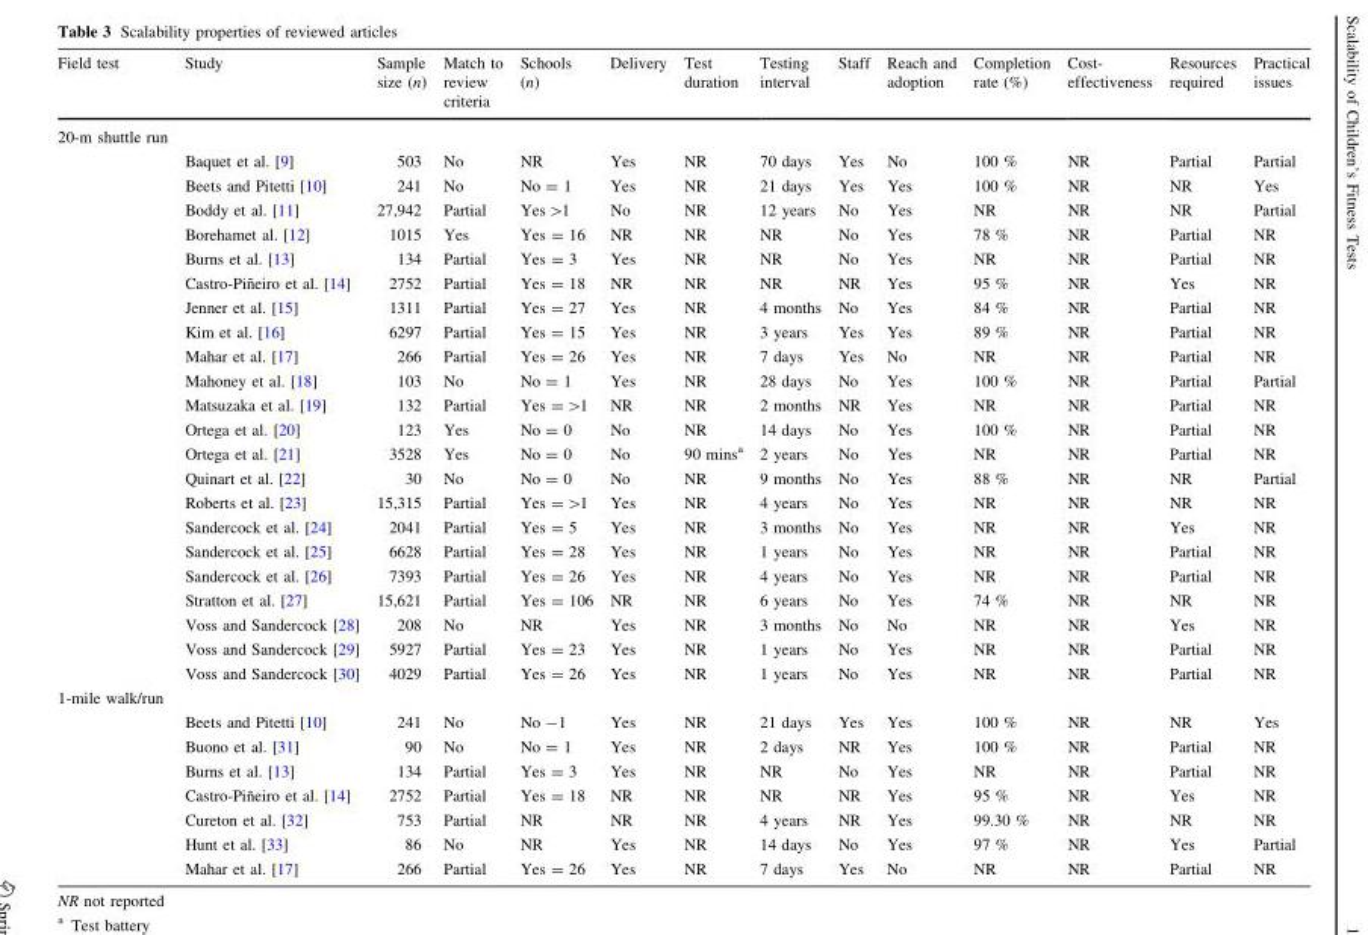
<table><thead><tr><td>Field test</td><td>Study</td><td>Sample size (n)</td><td>Match to review criteria</td><td>Schools (n)</td><td>Delivery</td><td>Test duration</td><td>Testing interval</td><td>Staff</td><td>Reach and adoption</td><td>Completion rate (%)</td><td>Cost- effectiveness</td><td>Resources required</td><td>Practical issues</td></tr></thead><tbody><tr><td colspan="14">20-m shuttle run</td></tr><tr><td></td><td>Baquet et al. [9]</td><td>503</td><td>No</td><td>NR</td><td>Yes</td><td>NR</td><td>70 days</td><td>Yes</td><td>No</td><td>100 %</td><td>NR</td><td>Partial</td><td>Partial</td></tr><tr><td></td><td>Beets and Pitetti [10]</td><td>241</td><td>No</td><td>No = 1</td><td>Yes</td><td>NR</td><td>21 days</td><td>Yes</td><td>Yes</td><td>100 %</td><td>NR</td><td>NR</td><td>Yes</td></tr><tr><td></td><td>Boddy et al. [11]</td><td>27,942</td><td>Partial</td><td>Yes &gt;1</td><td>No</td><td>NR</td><td>12 years</td><td>No</td><td>Yes</td><td>NR</td><td>NR</td><td>NR</td><td>Partial</td></tr><tr><td></td><td>Borehamet al. [12]</td><td>1015</td><td>Yes</td><td>Yes = 16</td><td>NR</td><td>NR</td><td>NR</td><td>No</td><td>Yes</td><td>78 %</td><td>NR</td><td>Partial</td><td>NR</td></tr><tr><td></td><td>Burns et al. [13]</td><td>134</td><td>Partial</td><td>Yes = 3</td><td>Yes</td><td>NR</td><td>NR</td><td>No</td><td>Yes</td><td>NR</td><td>NR</td><td>Partial</td><td>NR</td></tr><tr><td></td><td>Castro-Pin˜eiro et al. [14]</td><td>2752</td><td>Partial</td><td>Yes = 18</td><td>NR</td><td>NR</td><td>NR</td><td>NR</td><td>Yes</td><td>95 %</td><td>NR</td><td>Yes</td><td>NR</td></tr><tr><td></td><td>Jenner et al. [15]</td><td>1311</td><td>Partial</td><td>Yes = 27</td><td>Yes</td><td>NR</td><td>4 months</td><td>No</td><td>Yes</td><td>84 %</td><td>NR</td><td>Partial</td><td>NR</td></tr><tr><td></td><td>Kim et al. [16]</td><td>6297</td><td>Partial</td><td>Yes = 15</td><td>Yes</td><td>NR</td><td>3 years</td><td>Yes</td><td>Yes</td><td>89 %</td><td>NR</td><td>Partial</td><td>NR</td></tr><tr><td></td><td>Mahar et al. [17]</td><td>266</td><td>Partial</td><td>Yes = 26</td><td>Yes</td><td>NR</td><td>7 days</td><td>Yes</td><td>No</td><td>NR</td><td>NR</td><td>Partial</td><td>NR</td></tr><tr><td></td><td>Mahoney et al. [18]</td><td>103</td><td>No</td><td>No = 1</td><td>Yes</td><td>NR</td><td>28 days</td><td>No</td><td>Yes</td><td>100 %</td><td>NR</td><td>Partial</td><td>Partial</td></tr><tr><td></td><td>Matsuzaka et al. [19]</td><td>132</td><td>Partial</td><td>Yes = &gt;1</td><td>NR</td><td>NR</td><td>2 months</td><td>NR</td><td>Yes</td><td>NR</td><td>NR</td><td>Partial</td><td>NR</td></tr><tr><td></td><td>Ortega et al. [20]</td><td>123</td><td>Yes</td><td>No = 0</td><td>No</td><td>NR</td><td>14 days</td><td>No</td><td>Yes</td><td>100 %</td><td>NR</td><td>Partial</td><td>NR</td></tr><tr><td></td><td>Ortega et al. [21]</td><td>3528</td><td>Yes</td><td>No = 0</td><td>No</td><td>90 mins<sup>a</sup></td><td>2 years</td><td>No</td><td>Yes</td><td>NR</td><td>NR</td><td>Partial</td><td>NR</td></tr><tr><td></td><td>Quinart et al. [22]</td><td>30</td><td>No</td><td>No = 0</td><td>No</td><td>NR</td><td>9 months</td><td>No</td><td>Yes</td><td>88 %</td><td>NR</td><td>NR</td><td>Partial</td></tr><tr><td></td><td>Roberts et al. [23]</td><td>15,315</td><td>Partial</td><td>Yes = &gt;1</td><td>Yes</td><td>NR</td><td>4 years</td><td>No</td><td>Yes</td><td>NR</td><td>NR</td><td>NR</td><td>NR</td></tr><tr><td></td><td>Sandercock et al. [24]</td><td>2041</td><td>Partial</td><td>Yes = 5</td><td>Yes</td><td>NR</td><td>3 months</td><td>No</td><td>Yes</td><td>NR</td><td>NR</td><td>Yes</td><td>NR</td></tr><tr><td></td><td>Sandercock et al. [25]</td><td>6628</td><td>Partial</td><td>Yes = 28</td><td>Yes</td><td>NR</td><td>1 years</td><td>No</td><td>Yes</td><td>NR</td><td>NR</td><td>Partial</td><td>NR</td></tr><tr><td></td><td>Sandercock et al. [26]</td><td>7393</td><td>Partial</td><td>Yes = 26</td><td>Yes</td><td>NR</td><td>4 years</td><td>No</td><td>Yes</td><td>NR</td><td>NR</td><td>Partial</td><td>NR</td></tr><tr><td></td><td>Stratton et al. [27]</td><td>15,621</td><td>Partial</td><td>Yes = 106</td><td>NR</td><td>NR</td><td>6 years</td><td>No</td><td>Yes</td><td>74 %</td><td>NR</td><td>NR</td><td>NR</td></tr><tr><td></td><td>Voss and Sandercock [28]</td><td>208</td><td>No</td><td>NR</td><td>Yes</td><td>NR</td><td>3 months</td><td>No</td><td>No</td><td>NR</td><td>NR</td><td>Yes</td><td>NR</td></tr><tr><td></td><td>Voss and Sandercock [29]</td><td>5927</td><td>Partial</td><td>Yes = 23</td><td>Yes</td><td>NR</td><td>1 years</td><td>No</td><td>Yes</td><td>NR</td><td>NR</td><td>Partial</td><td>NR</td></tr><tr><td></td><td>Voss and Sandercock [30]</td><td>4029</td><td>Partial</td><td>Yes = 26</td><td>Yes</td><td>NR</td><td>1 years</td><td>No</td><td>Yes</td><td>NR</td><td>NR</td><td>Partial</td><td>NR</td></tr><tr><td colspan="14">1-mile walk/run</td></tr><tr><td></td><td>Beets and Pitetti [10]</td><td>241</td><td>No</td><td>No -1</td><td>Yes</td><td>NR</td><td>21 days</td><td>Yes</td><td>Yes</td><td>100 %</td><td>NR</td><td>NR</td><td>Yes</td></tr><tr><td></td><td>Buono et al. [31]</td><td>90</td><td>No</td><td>No = 1</td><td>Yes</td><td>NR</td><td>2 days</td><td>NR</td><td>Yes</td><td>100 %</td><td>NR</td><td>Partial</td><td>NR</td></tr><tr><td></td><td>Burns et al. [13]</td><td>134</td><td>Partial</td><td>Yes = 3</td><td>Yes</td><td>NR</td><td>NR</td><td>No</td><td>Yes</td><td>NR</td><td>NR</td><td>Partial</td><td>NR</td></tr><tr><td></td><td>Castro-Pin˜eiro et al. [14]</td><td>2752</td><td>Partial</td><td>Yes = 18</td><td>NR</td><td>NR</td><td>NR</td><td>NR</td><td>Yes</td><td>95 %</td><td>NR</td><td>Yes</td><td>NR</td></tr><tr><td></td><td>Cureton et al. [32]</td><td>753</td><td>Partial</td><td>NR</td><td>NR</td><td>NR</td><td>4 years</td><td>NR</td><td>Yes</td><td>99.30 %</td><td>NR</td><td>NR</td><td>NR</td></tr><tr><td></td><td>Hunt et al. [33]</td><td>86</td><td>No</td><td>NR</td><td>Yes</td><td>NR</td><td>14 days</td><td>No</td><td>Yes</td><td>97 %</td><td>NR</td><td>Yes</td><td>Partial</td></tr><tr><td></td><td>Mahar et al. [17]</td><td>266</td><td>Partial</td><td>Yes = 26</td><td>Yes</td><td>NR</td><td>7 days</td><td>Yes</td><td>No</td><td>NR</td><td>NR</td><td>Partial</td><td>NR</td></tr></tbody></table>